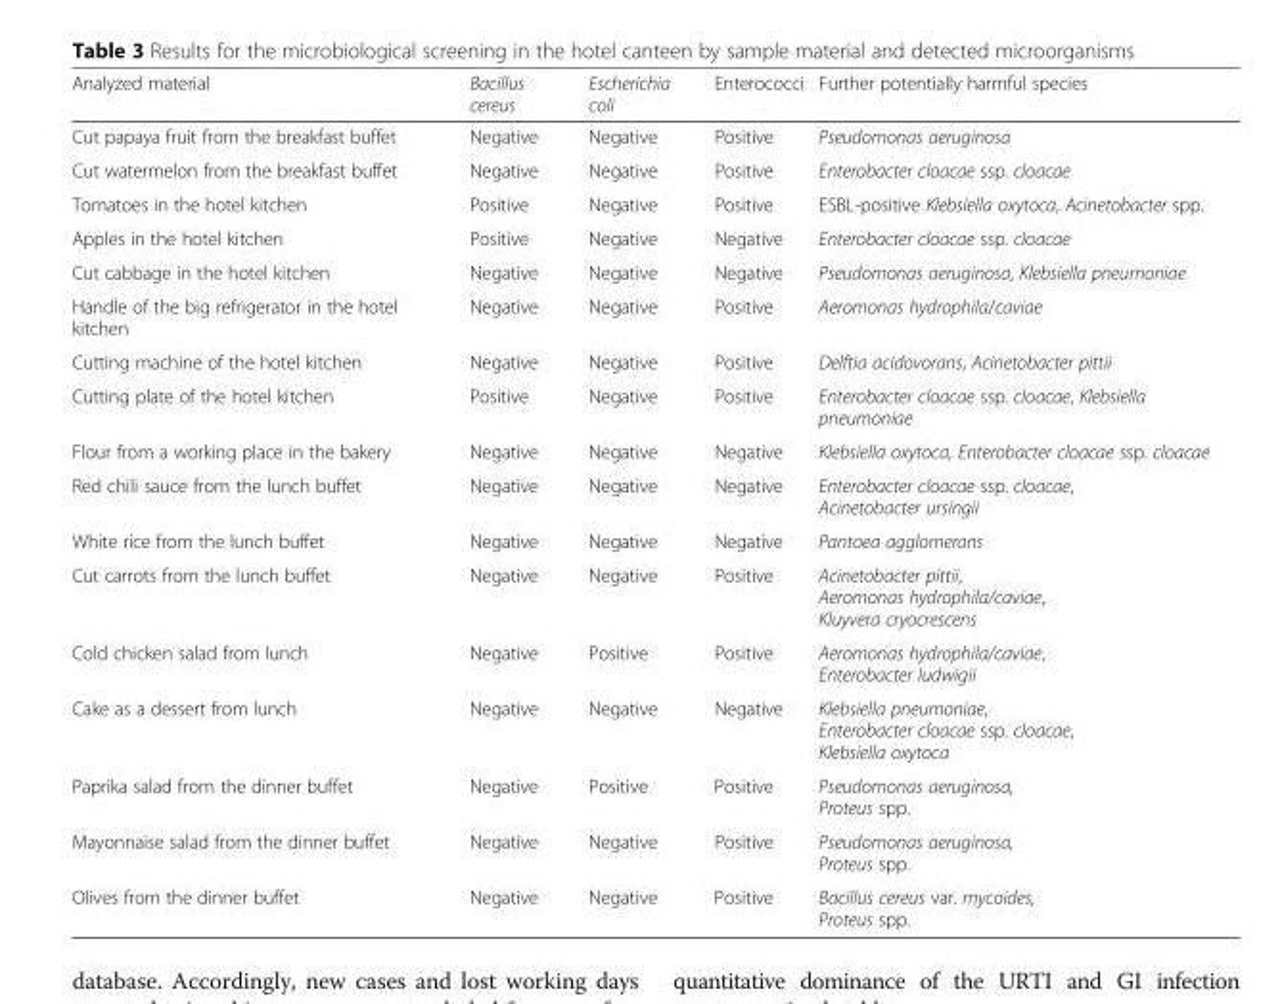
<table><thead><tr><td>Analyzed material</td><td>Bacillus cereus</td><td>Escherichia coli</td><td>Enterococci</td><td>Further potentially harmful species</td></tr></thead><tbody><tr><td>Cut papaya fruit from the breakfast buffet</td><td>Negative</td><td>Negative</td><td>Positive</td><td>Pseudomonas aeruginosa</td></tr><tr><td>Cut watermelon from the breakfast buffet</td><td>Negative</td><td>Negative</td><td>Positive</td><td>Enterobacter cloacae ssp. cloacae</td></tr><tr><td>Tomatoes in the hotel kitchen</td><td>Positive</td><td>Negative</td><td>Positive</td><td>ESBL-positive Klebsiella oxytoca, Acinetobacter spp.</td></tr><tr><td>Apples in the hotel kitchen</td><td>Positive</td><td>Negative</td><td>Negative</td><td>Enterobacter cloacae ssp. cloacae</td></tr><tr><td>Cut cabbage in the hotel kitchen</td><td>Negative</td><td>Negative</td><td>Negative</td><td>Pseudomonas aeruginosa, Klebsiella pneumoniae</td></tr><tr><td>Handle of the big refrigerator in the hotel kitchen</td><td>Negative</td><td>Negative</td><td>Positive</td><td>Aeromonas hydrophila/caviae</td></tr><tr><td>Cutting machine of the hotel kitchen</td><td>Negative</td><td>Negative</td><td>Positive</td><td>Delftia acidovorans, Acinetobacter pittii</td></tr><tr><td>Cutting plate of the hotel kitchen</td><td>Positive</td><td>Negative</td><td>Positive</td><td>Enterobacter cloacae ssp. cloacae, Klebsiella pneumoniae</td></tr><tr><td>Flour from a working place in the bakery</td><td>Negative</td><td>Negative</td><td>Negative</td><td>Klebsiella oxytoca, Enterobacter cloacae ssp. cloacae</td></tr><tr><td>Red chili sauce from the lunch buffet</td><td>Negative</td><td>Negative</td><td>Negative</td><td>Enterobacter cloacae ssp. cloacae, Acinetobacter ursingii</td></tr><tr><td>White rice from the lunch buffet</td><td>Negative</td><td>Negative</td><td>Negative</td><td>Pantoea agglomerans</td></tr><tr><td>Cut carrots from the lunch buffet</td><td>Negative</td><td>Negative</td><td>Positive</td><td>Acinetobacter pittii, Aeromonas hydrophila/caviae, Kluyvera cryocrescens</td></tr><tr><td>Cold chicken salad from lunch</td><td>Negative</td><td>Positive</td><td>Positive</td><td>Aeromonas hydrophila/caviae, Enterobacter ludwigii</td></tr><tr><td>Cake as a dessert from lunch</td><td>Negative</td><td>Negative</td><td>Negative</td><td>Klebsiella pneumoniae, Enterobacter cloacae ssp. cloacae, Klebsiella oxytoca</td></tr><tr><td>Paprika salad from the dinner buffet</td><td>Negative</td><td>Positive</td><td>Positive</td><td>Pseudomonas aeruginosa, Proteus spp.</td></tr><tr><td>Mayonnaise salad from the dinner buffet</td><td>Negative</td><td>Negative</td><td>Positive</td><td>Pseudomonas aeruginosa, Proteus spp.</td></tr><tr><td>Olives from the dinner buffet</td><td>Negative</td><td>Negative</td><td>Positive</td><td>Bacillus cereus var. mycoides, Proteus spp.</td></tr></tbody></table>